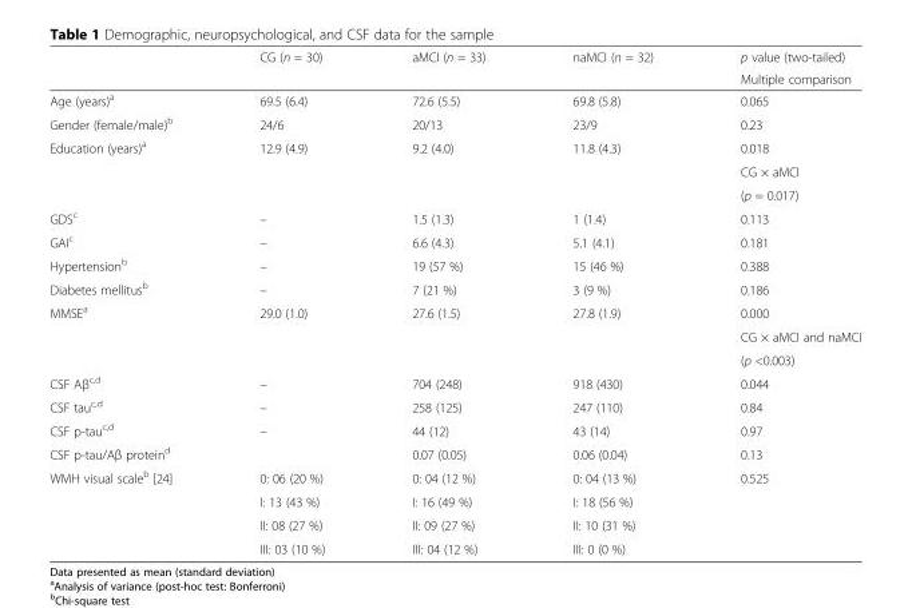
<table><thead><tr><td rowspan="2"></td><td rowspan="2">CG (n = 30)</td><td rowspan="2">aMCI (n = 33)</td><td rowspan="2">naMCI (n = 32)</td><td rowspan="2">p value (two-tailed) Multiple comparison</td></tr><tr></tr></thead><tbody><tr><td>Age (years)<sup>a</sup></td><td>69.5 (6.4)</td><td>72.6 (5.5)</td><td>69.8 (5.8)</td><td>0.065</td></tr><tr><td>Gender (female/male)<sup>b</sup></td><td>24/6</td><td>20/13</td><td>23/9</td><td>0.23</td></tr><tr><td rowspan="3">Education (years)<sup>a</sup></td><td rowspan="3">12.9 (4.9)</td><td rowspan="3">9.2 (4.0)</td><td rowspan="3">11.8 (4.3)</td><td>0.018</td></tr><tr><td>CG × aMCI</td></tr><tr><td>(p = 0.017)</td></tr><tr><td>GDS<sup>c</sup></td><td>–</td><td>1.5 (1.3)</td><td>1 (1.4)</td><td>0.113</td></tr><tr><td>GAI<sup>c</sup></td><td>–</td><td>6.6 (4.3)</td><td>5.1 (4.1)</td><td>0.181</td></tr><tr><td>Hypertension<sup>b</sup></td><td>–</td><td>19 (57 %)</td><td>15 (46 %)</td><td>0.388</td></tr><tr><td>Diabetes mellitus<sup>b</sup></td><td>–</td><td>7 (21 %)</td><td>3 (9 %)</td><td>0.186</td></tr><tr><td rowspan="3">MMSE<sup>a</sup></td><td rowspan="3">29.0 (1.0)</td><td rowspan="3">27.6 (1.5)</td><td rowspan="3">27.8 (1.9)</td><td>0.000</td></tr><tr><td>CG × aMCI and naMCI</td></tr><tr><td>(p &lt;0.003)</td></tr><tr><td>CSF Aβ<sup>c,d</sup></td><td>–</td><td>704 (248)</td><td>918 (430)</td><td>0.044</td></tr><tr><td>CSF tau<sup>c,d</sup></td><td>–</td><td>258 (125)</td><td>247 (110)</td><td>0.84</td></tr><tr><td>CSF p-tau<sup>c,d</sup></td><td>–</td><td>44 (12)</td><td>43 (14)</td><td>0.97</td></tr><tr><td>CSF p-tau/Aβ protein<sup>d</sup></td><td></td><td>0.07 (0.05)</td><td>0.06 (0.04)</td><td>0.13</td></tr><tr><td rowspan="4">WMH visual scale<sup>b</sup> [24]</td><td>0: 06 (20 %)</td><td>0: 04 (12 %)</td><td>0: 04 (13 %)</td><td rowspan="4">0.525</td></tr><tr><td>I: 13 (43 %)</td><td>I: 16 (49 %)</td><td>I: 18 (56 %)</td></tr><tr><td>II: 08 (27 %)</td><td>II: 09 (27 %)</td><td>II: 10 (31 %)</td></tr><tr><td>III: 03 (10 %)</td><td>III: 04 (12 %)</td><td>III: 0 (0 %)</td></tr></tbody></table>